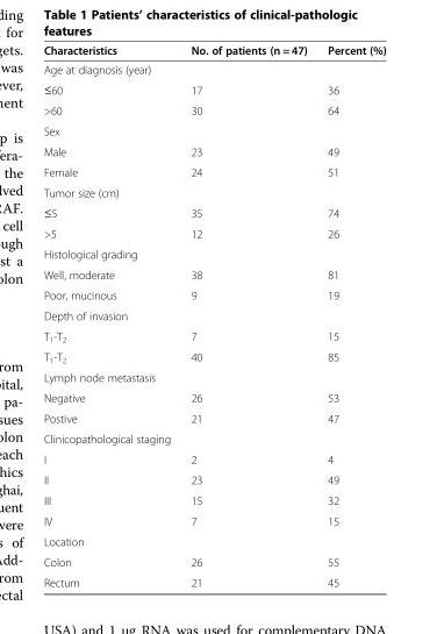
<table><thead><tr><td>Characteristics</td><td>No. of patients (n = 47)</td><td>Percent (%)</td></tr></thead><tbody><tr><td colspan="3">Age at diagnosis (year)</td></tr><tr><td>≤60</td><td>17</td><td>36</td></tr><tr><td>&gt;60</td><td>30</td><td>64</td></tr><tr><td colspan="3">Sex</td></tr><tr><td>Male</td><td>23</td><td>49</td></tr><tr><td>Female</td><td>24</td><td>51</td></tr><tr><td colspan="3">Tumor size (cm)</td></tr><tr><td>≤5</td><td>35</td><td>74</td></tr><tr><td>&gt;5</td><td>12</td><td>26</td></tr><tr><td colspan="3">Histological grading</td></tr><tr><td>Well, moderate</td><td>38</td><td>81</td></tr><tr><td>Poor, mucinous</td><td>9</td><td>19</td></tr><tr><td colspan="3">Depth of invasion</td></tr><tr><td>T<sub>1</sub>-T<sub>2</sub></td><td>7</td><td>15</td></tr><tr><td>T<sub>1</sub>-T<sub>2</sub></td><td>40</td><td>85</td></tr><tr><td colspan="3">Lymph node metastasis</td></tr><tr><td>Negative</td><td>26</td><td>53</td></tr><tr><td>Postive</td><td>21</td><td>47</td></tr><tr><td colspan="3">Clinicopathological staging</td></tr><tr><td>I</td><td>2</td><td>4</td></tr><tr><td>II</td><td>23</td><td>49</td></tr><tr><td>III</td><td>15</td><td>32</td></tr><tr><td>IV</td><td>7</td><td>15</td></tr><tr><td colspan="3">Location</td></tr><tr><td>Colon</td><td>26</td><td>55</td></tr><tr><td>Rectum</td><td>21</td><td>45</td></tr></tbody></table>